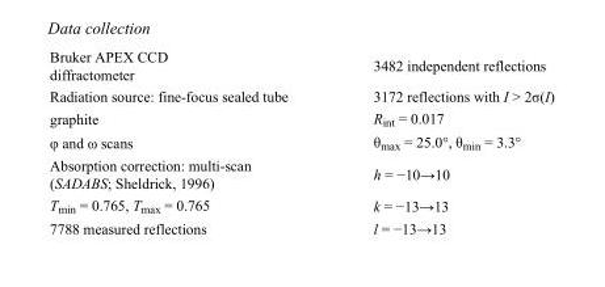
<table><tbody><tr><td>Bruker APEX CCD diffractometer</td><td>3482 independent reflections</td></tr><tr><td>Radiation source: fine-focus sealed tube</td><td>3172 reflections with I &gt; 2σ(I)</td></tr><tr><td>graphite</td><td>R<sub>int</sub> = 0.017</td></tr><tr><td>φ and ω scans</td><td>θ<sub>max</sub> = 25.0°, θ<sub>min</sub> = 3.3°</td></tr><tr><td>Absorption correction: multi-scan (SADABS; Sheldrick, 1996)</td><td>h = −10→10</td></tr><tr><td>T<sub>min</sub> = 0.765, T<sub>max</sub> = 0.765</td><td>k = −13→13</td></tr><tr><td>7788 measured reflections</td><td>l = −13→13</td></tr></tbody></table>